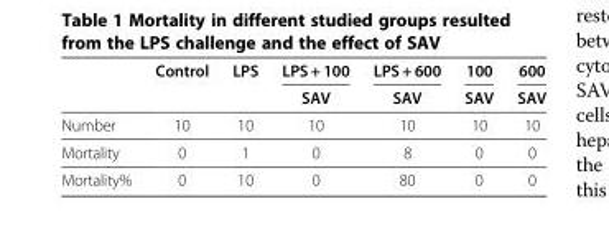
<table><thead><tr><td rowspan="2"></td><td rowspan="2">Control</td><td rowspan="2">LPS</td><td rowspan="2">LPS + 100 SAV</td><td rowspan="2">LPS + 600 SAV</td><td rowspan="2">100 SAV</td><td rowspan="2">600 SAV</td></tr><tr></tr></thead><tbody><tr><td>Number</td><td>10</td><td>10</td><td>10</td><td>10</td><td>10</td><td>10</td></tr><tr><td>Mortality</td><td>0</td><td>1</td><td>0</td><td>8</td><td>0</td><td>0</td></tr><tr><td>Mortality%</td><td>0</td><td>10</td><td>0</td><td>80</td><td>0</td><td>0</td></tr></tbody></table>